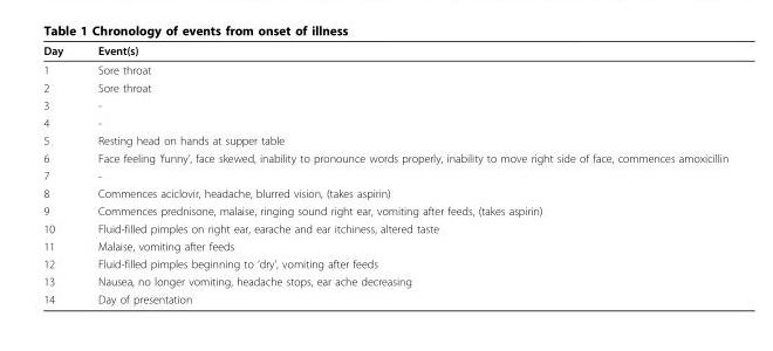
<table><thead><tr><td>Day</td><td>Event(s)</td></tr></thead><tbody><tr><td>1</td><td>Sore throat</td></tr><tr><td>2</td><td>Sore throat</td></tr><tr><td>3</td><td>-</td></tr><tr><td>4</td><td>-</td></tr><tr><td>5</td><td>Resting head on hands at supper table</td></tr><tr><td>6</td><td>Face feeling ‘funny’, face skewed, inability to pronounce words properly, inability to move right side of face, commences amoxicillin</td></tr><tr><td>7</td><td>-</td></tr><tr><td>8</td><td>Commences aciclovir, headache, blurred vision, (takes aspirin)</td></tr><tr><td>9</td><td>Commences prednisone, malaise, ringing sound right ear, vomiting after feeds, (takes aspirin)</td></tr><tr><td>10</td><td>Fluid-filled pimples on right ear, earache and ear itchiness, altered taste</td></tr><tr><td>11</td><td>Malaise, vomiting after feeds</td></tr><tr><td>12</td><td>Fluid-filled pimples beginning to ‘dry’, vomiting after feeds</td></tr><tr><td>13</td><td>Nausea, no longer vomiting, headache stops, ear ache decreasing</td></tr><tr><td>14</td><td>Day of presentation</td></tr></tbody></table>